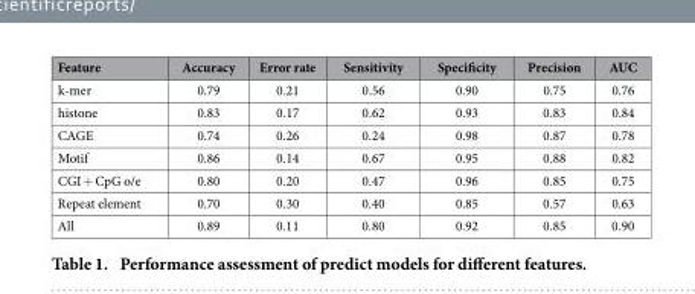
<table><thead><tr><td>Feature</td><td>Accuracy</td><td>Error rate</td><td>Sensitivity</td><td>Specificity</td><td>Precision</td><td>AUC</td></tr></thead><tbody><tr><td>k-mer</td><td>0.79</td><td>0.21</td><td>0.56</td><td>0.90</td><td>0.75</td><td>0.76</td></tr><tr><td>histone</td><td>0.83</td><td>0.17</td><td>0.62</td><td>0.93</td><td>0.83</td><td>0.84</td></tr><tr><td>CAGE</td><td>0.74</td><td>0.26</td><td>0.24</td><td>0.98</td><td>0.87</td><td>0.78</td></tr><tr><td>Motif</td><td>0.86</td><td>0.14</td><td>0.67</td><td>0.95</td><td>0.88</td><td>0.82</td></tr><tr><td>CGI + CpG o/e</td><td>0.80</td><td>0.20</td><td>0.47</td><td>0.96</td><td>0.85</td><td>0.75</td></tr><tr><td>Repeat element</td><td>0.70</td><td>0.30</td><td>0.40</td><td>0.85</td><td>0.57</td><td>0.63</td></tr><tr><td>All</td><td>0.89</td><td>0.11</td><td>0.80</td><td>0.92</td><td>0.85</td><td>0.90</td></tr></tbody></table>